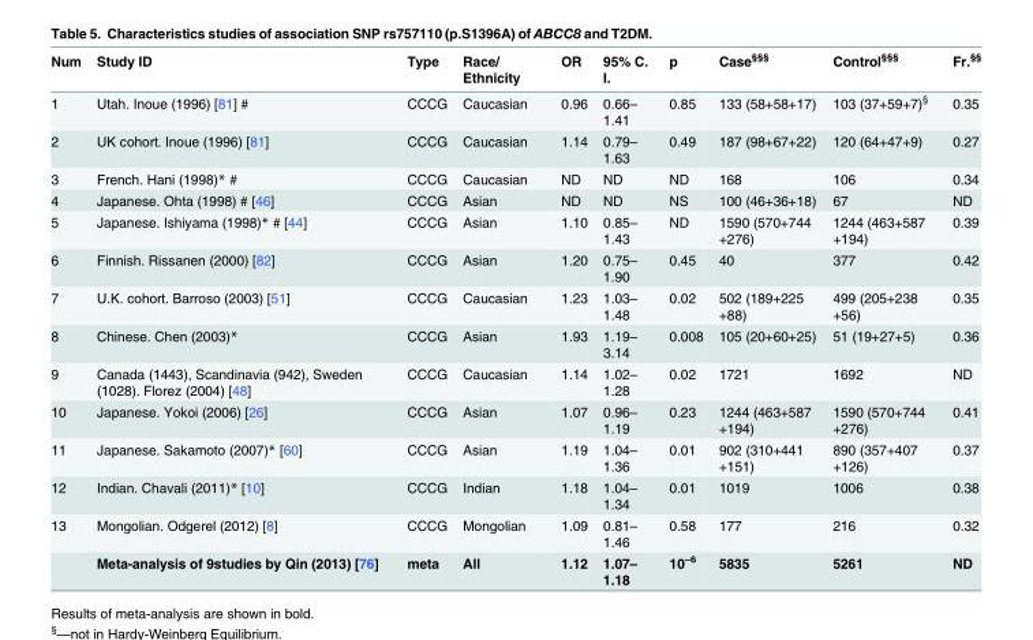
<table><thead><tr><td>Num</td><td>Study ID</td><td>Type</td><td>Race/ Ethnicity</td><td>OR</td><td>95% C. I.</td><td>p</td><td>Case<sup>§§§</sup></td><td>Control<sup>§§§</sup></td><td>Fr.<sup>§§</sup></td></tr></thead><tbody><tr><td>1</td><td>Utah. Inoue (1996) [81] #</td><td>CCCG</td><td>Caucasian</td><td>0.96</td><td>0.66– 1.41</td><td>0.85</td><td>133 (58+58+17)</td><td>103 (37+59+7)<sup>§</sup></td><td>0.35</td></tr><tr><td>2</td><td>UK cohort. Inoue (1996) [81]</td><td>CCCG</td><td>Caucasian</td><td>1.14</td><td>0.79– 1.63</td><td>0.49</td><td>187 (98+67+22)</td><td>120 (64+47+9)</td><td>0.27</td></tr><tr><td>3</td><td>French. Hani (1998)* #</td><td>CCCG</td><td>Caucasian</td><td>ND</td><td>ND</td><td>ND</td><td>168</td><td>106</td><td>0.34</td></tr><tr><td>4</td><td>Japanese. Ohta (1998) # [46]</td><td>CCCG</td><td>Asian</td><td>ND</td><td>ND</td><td>NS</td><td>100 (46+36+18)</td><td>67</td><td>ND</td></tr><tr><td>5</td><td>Japanese. Ishiyama (1998)* # [44]</td><td>CCCG</td><td>Asian</td><td>1.10</td><td>0.85– 1.43</td><td>ND</td><td>1590 (570+744 +276)</td><td>1244 (463+587 +194)</td><td>0.39</td></tr><tr><td>6</td><td>Finnish. Rissanen (2000) [82]</td><td>CCCG</td><td>Asian</td><td>1.20</td><td>0.75– 1.90</td><td>0.45</td><td>40</td><td>377</td><td>0.42</td></tr><tr><td>7</td><td>U.K. cohort. Barroso (2003) [51]</td><td>CCCG</td><td>Caucasian</td><td>1.23</td><td>1.03– 1.48</td><td>0.02</td><td>502 (189+225 +88)</td><td>499 (205+238 +56)</td><td>0.35</td></tr><tr><td>8</td><td>Chinese. Chen (2003)*</td><td>CCCG</td><td>Asian</td><td>1.93</td><td>1.19– 3.14</td><td>0.008</td><td>105 (20+60+25)</td><td>51 (19+27+5)</td><td>0.36</td></tr><tr><td>9</td><td>Canada (1443), Scandinavia (942), Sweden (1028). Florez (2004) [48]</td><td>CCCG</td><td>Caucasian</td><td>1.14</td><td>1.02– 1.28</td><td>0.02</td><td>1721</td><td>1692</td><td>ND</td></tr><tr><td>10</td><td>Japanese. Yokoi (2006) [26]</td><td>CCCG</td><td>Asian</td><td>1.07</td><td>0.96– 1.19</td><td>0.23</td><td>1244 (463+587 +194)</td><td>1590 (570+744 +276)</td><td>0.41</td></tr><tr><td>11</td><td>Japanese. Sakamoto (2007)* [60]</td><td>CCCG</td><td>Asian</td><td>1.19</td><td>1.04– 1.36</td><td>0.01</td><td>902 (310+441 +151)</td><td>890 (357+407 +126)</td><td>0.37</td></tr><tr><td>12</td><td>Indian. Chavali (2011)* [10]</td><td>CCCG</td><td>Indian</td><td>1.18</td><td>1.04– 1.34</td><td>0.01</td><td>1019</td><td>1006</td><td>0.38</td></tr><tr><td rowspan="2">13</td><td>Mongolian. Odgerel (2012) [8]</td><td>CCCG</td><td>Mongolian</td><td>1.09</td><td>0.81– 1.46</td><td>0.58</td><td>177</td><td>216</td><td>0.32</td></tr><tr><td>Meta-analysis of 9studies by Qin (2013) [76]</td><td>meta</td><td>All</td><td>1.12</td><td>1.07– 1.18</td><td>10<sup>–6</sup></td><td>5835</td><td>5261</td><td>ND</td></tr></tbody></table>